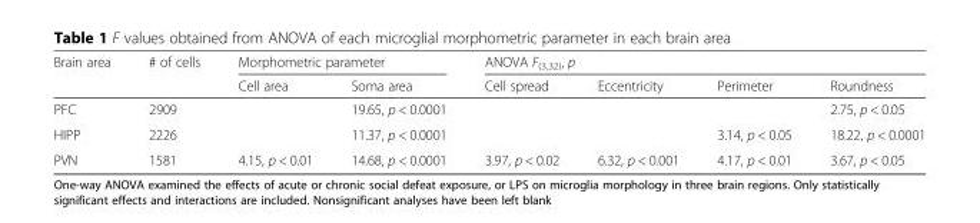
<table><thead><tr><td rowspan="2">Brain area</td><td rowspan="2"># of cells</td><td colspan="2">Morphometric parameter</td><td colspan="4">ANOVA F<sub>(3,32)</sub>, p</td></tr><tr><td>Cell area</td><td>Soma area</td><td>Cell spread</td><td>Eccentricity</td><td>Perimeter</td><td>Roundness</td></tr></thead><tbody><tr><td>PFC</td><td>2909</td><td></td><td>19.65, p &lt; 0.0001</td><td></td><td></td><td></td><td>2.75, p &lt; 0.05</td></tr><tr><td>HIPP</td><td>2226</td><td></td><td>11.37, p &lt; 0.0001</td><td></td><td></td><td>3.14, p &lt; 0.05</td><td>18.22, p &lt; 0.0001</td></tr><tr><td>PVN</td><td>1581</td><td>4.15, p &lt; 0.01</td><td>14.68, p &lt; 0.0001</td><td>3.97, p &lt; 0.02</td><td>6.32, p &lt; 0.001</td><td>4.17, p &lt; 0.01</td><td>3.67, p &lt; 0.05</td></tr></tbody></table>